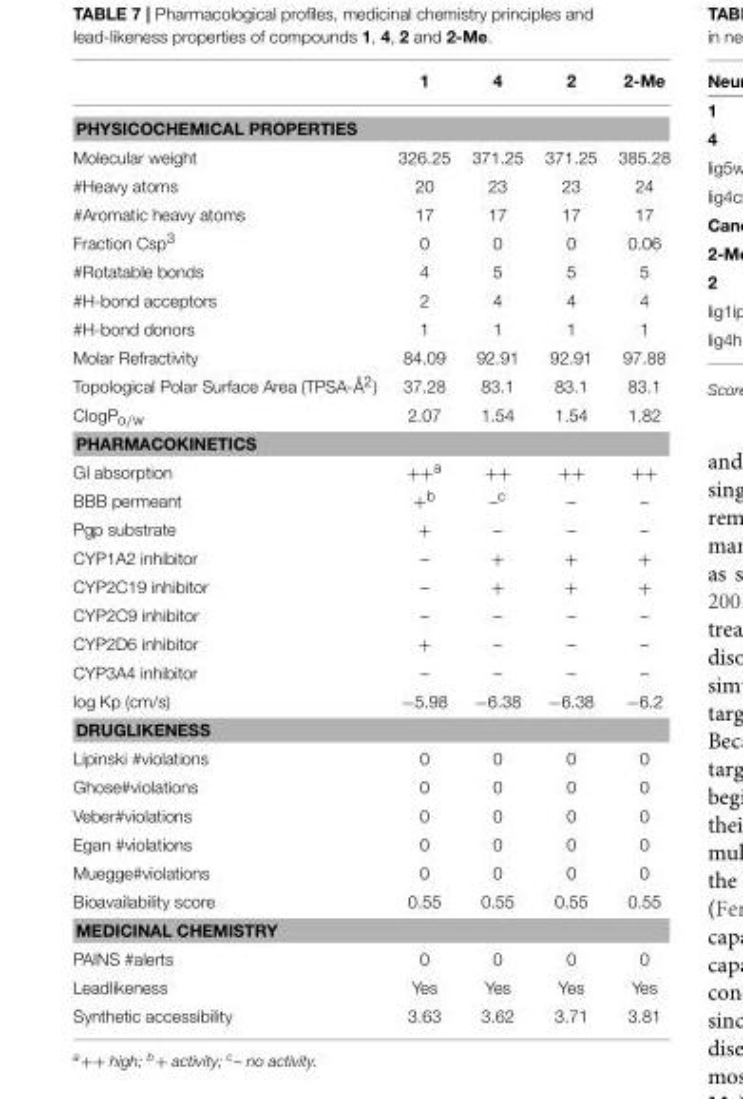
<table><thead><tr><td></td><td>1</td><td>4</td><td>2</td><td>2-Me</td></tr></thead><tbody><tr><td colspan="5">PHYSICOCHEMICAL PROPERTIES</td></tr><tr><td>Molecular weight</td><td>326.25</td><td>371.25</td><td>371.25</td><td>385.28</td></tr><tr><td>#Heavy atoms</td><td>20</td><td>23</td><td>23</td><td>24</td></tr><tr><td>#Aromatic heavy atoms</td><td>17</td><td>17</td><td>17</td><td>17</td></tr><tr><td>Fraction Csp<sup>3</sup></td><td>0</td><td>0</td><td>0</td><td>0.06</td></tr><tr><td>#Rotatable bonds</td><td>4</td><td>5</td><td>5</td><td>5</td></tr><tr><td>#H-bond acceptors</td><td>2</td><td>4</td><td>4</td><td>4</td></tr><tr><td>#H-bond donors</td><td>1</td><td>1</td><td>1</td><td>1</td></tr><tr><td>Molar Refractivity</td><td>84.09</td><td>92.91</td><td>92.91</td><td>97.88</td></tr><tr><td>Topological Polar Surface Area (TPSA-Å<sup>2</sup>)</td><td>37.28</td><td>83.1</td><td>83.1</td><td>83.1</td></tr><tr><td>ClogP<sub>o/w</sub></td><td>2.07</td><td>1.54</td><td>1.54</td><td>1.82</td></tr><tr><td colspan="5">PHARMACOKINETICS</td></tr><tr><td>GI absorption</td><td>++<sup>a</sup></td><td>++</td><td>++</td><td>++</td></tr><tr><td>BBB permeant</td><td>+<sup>b</sup></td><td>–<sup>c</sup></td><td>–</td><td>–</td></tr><tr><td>Pgp substrate</td><td>+</td><td>–</td><td>–</td><td>–</td></tr><tr><td>CYP1A2 inhibitor</td><td>–</td><td>+</td><td>+</td><td>+</td></tr><tr><td>CYP2C19 inhibitor</td><td>–</td><td>+</td><td>+</td><td>+</td></tr><tr><td>CYP2C9 inhibitor</td><td>–</td><td>–</td><td>–</td><td>–</td></tr><tr><td>CYP2D6 inhibitor</td><td>+</td><td>–</td><td>–</td><td>–</td></tr><tr><td>CYP3A4 inhibitor</td><td>–</td><td>–</td><td>–</td><td>–</td></tr><tr><td>log Kp (cm/s)</td><td>−5.98</td><td>−6.38</td><td>−6.38</td><td>−6.2</td></tr><tr><td colspan="5">DRUGLIKENESS</td></tr><tr><td>Lipinski #violations</td><td>0</td><td>0</td><td>0</td><td>0</td></tr><tr><td>Ghose#violations</td><td>0</td><td>0</td><td>0</td><td>0</td></tr><tr><td>Veber#violations</td><td>0</td><td>0</td><td>0</td><td>0</td></tr><tr><td>Egan #violations</td><td>0</td><td>0</td><td>0</td><td>0</td></tr><tr><td>Muegge#violations</td><td>0</td><td>0</td><td>0</td><td>0</td></tr><tr><td>Bioavailability score</td><td>0.55</td><td>0.55</td><td>0.55</td><td>0.55</td></tr><tr><td colspan="5">MEDICINAL CHEMISTRY</td></tr><tr><td>PAINS #alerts</td><td>0</td><td>0</td><td>0</td><td>0</td></tr><tr><td>Leadlikeness</td><td>Yes</td><td>Yes</td><td>Yes</td><td>Yes</td></tr><tr><td>Synthetic accessibility</td><td>3.63</td><td>3.62</td><td>3.71</td><td>3.81</td></tr></tbody></table>